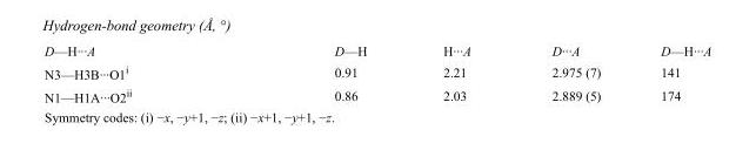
<table><tbody><tr><td>D—H···A</td><td>D—H</td><td>H···A</td><td>D···A</td><td>D—H···A</td></tr><tr><td>N3—H3B···O1<sup>i</sup></td><td>0.91</td><td>2.21</td><td>2.975 (7)</td><td>141</td></tr><tr><td>N1—H1A···O2<sup>ii</sup></td><td>0.86</td><td>2.03</td><td>2.889 (5)</td><td>174</td></tr></tbody></table>